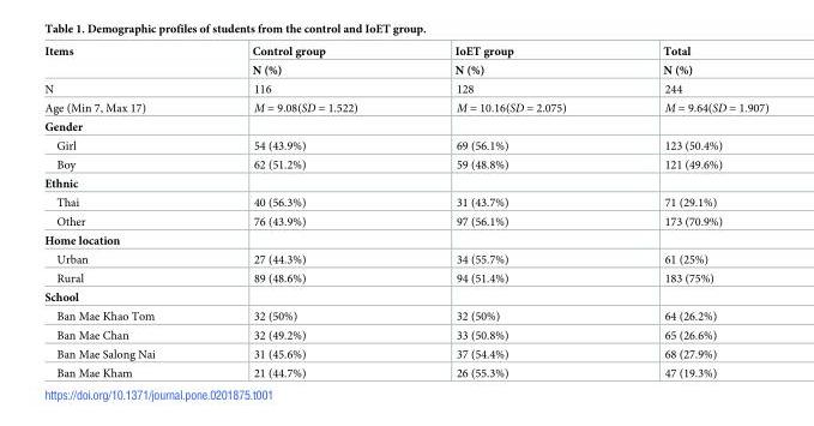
<table><thead><tr><td rowspan="2">Items</td><td rowspan="2">Control group N (%)</td><td rowspan="2">IoET group N (%)</td><td rowspan="2">Total N (%)</td></tr><tr></tr></thead><tbody><tr><td>N</td><td>116</td><td>128</td><td>244</td></tr><tr><td>Age (Min 7, Max 17)</td><td>M = 9.08(SD = 1.522)</td><td>M = 10.16(SD = 2.075)</td><td>M = 9.64(SD = 1.907)</td></tr><tr><td colspan="4">Gender</td></tr><tr><td>Girl</td><td>54 (43.9%)</td><td>69 (56.1%)</td><td>123 (50.4%)</td></tr><tr><td>Boy</td><td>62 (51.2%)</td><td>59 (48.8%)</td><td>121 (49.6%)</td></tr><tr><td colspan="4">Ethnic</td></tr><tr><td>Thai</td><td>40 (56.3%)</td><td>31 (43.7%)</td><td>71 (29.1%)</td></tr><tr><td>Other</td><td>76 (43.9%)</td><td>97 (56.1%)</td><td>173 (70.9%)</td></tr><tr><td colspan="4">Home location</td></tr><tr><td>Urban</td><td>27 (44.3%)</td><td>34 (55.7%)</td><td>61 (25%)</td></tr><tr><td>Rural</td><td>89 (48.6%)</td><td>94 (51.4%)</td><td>183 (75%)</td></tr><tr><td colspan="4">School</td></tr><tr><td>Ban Mae Khao Tom</td><td>32 (50%)</td><td>32 (50%)</td><td>64 (26.2%)</td></tr><tr><td>Ban Mae Chan</td><td>32 (49.2%)</td><td>33 (50.8%)</td><td>65 (26.6%)</td></tr><tr><td>Ban Mae Salong Nai</td><td>31 (45.6%)</td><td>37 (54.4%)</td><td>68 (27.9%)</td></tr><tr><td>Ban Mae Kham</td><td>21 (44.7%)</td><td>26 (55.3%)</td><td>47 (19.3%)</td></tr></tbody></table>